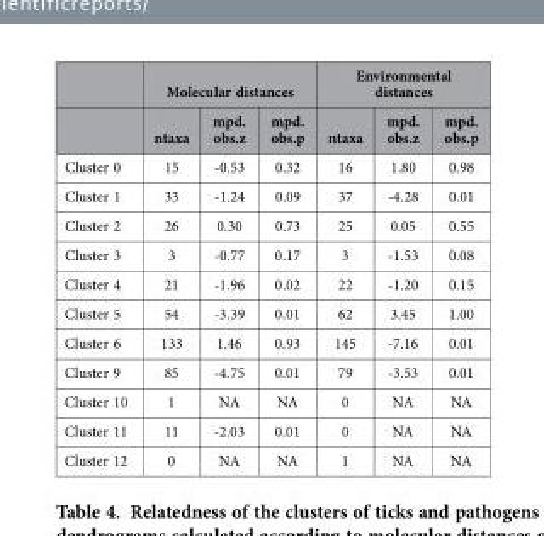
<table><thead><tr><td rowspan="2"></td><td colspan="3">Molecular distances</td><td colspan="3">Environmental distances</td></tr><tr><td>ntaxa</td><td>mpd. obs.z</td><td>mpd. obs.p</td><td>ntaxa</td><td>mpd. obs.z</td><td>mpd. obs.p</td></tr></thead><tbody><tr><td>Cluster 0</td><td>15</td><td>-0.53</td><td>0.32</td><td>16</td><td>1.80</td><td>0.98</td></tr><tr><td>Cluster 1</td><td>33</td><td>-1.24</td><td>0.09</td><td>37</td><td>-4.28</td><td>0.01</td></tr><tr><td>Cluster 2</td><td>26</td><td>0.30</td><td>0.73</td><td>25</td><td>0.05</td><td>0.55</td></tr><tr><td>Cluster 3</td><td>3</td><td>-0.77</td><td>0.17</td><td>3</td><td>-1.53</td><td>0.08</td></tr><tr><td>Cluster 4</td><td>21</td><td>-1.96</td><td>0.02</td><td>22</td><td>-1.20</td><td>0.15</td></tr><tr><td>Cluster 5</td><td>54</td><td>-3.39</td><td>0.01</td><td>62</td><td>3.45</td><td>1.00</td></tr><tr><td>Cluster 6</td><td>133</td><td>1.46</td><td>0.93</td><td>145</td><td>-7.16</td><td>0.01</td></tr><tr><td>Cluster 9</td><td>85</td><td>-4.75</td><td>0.01</td><td>79</td><td>-3.53</td><td>0.01</td></tr><tr><td>Cluster 10</td><td>1</td><td>NA</td><td>NA</td><td>0</td><td>NA</td><td>NA</td></tr><tr><td>Cluster 11</td><td>11</td><td>-2.03</td><td>0.01</td><td>0</td><td>NA</td><td>NA</td></tr><tr><td>Cluster 12</td><td>0</td><td>NA</td><td>NA</td><td>1</td><td>NA</td><td>NA</td></tr></tbody></table>